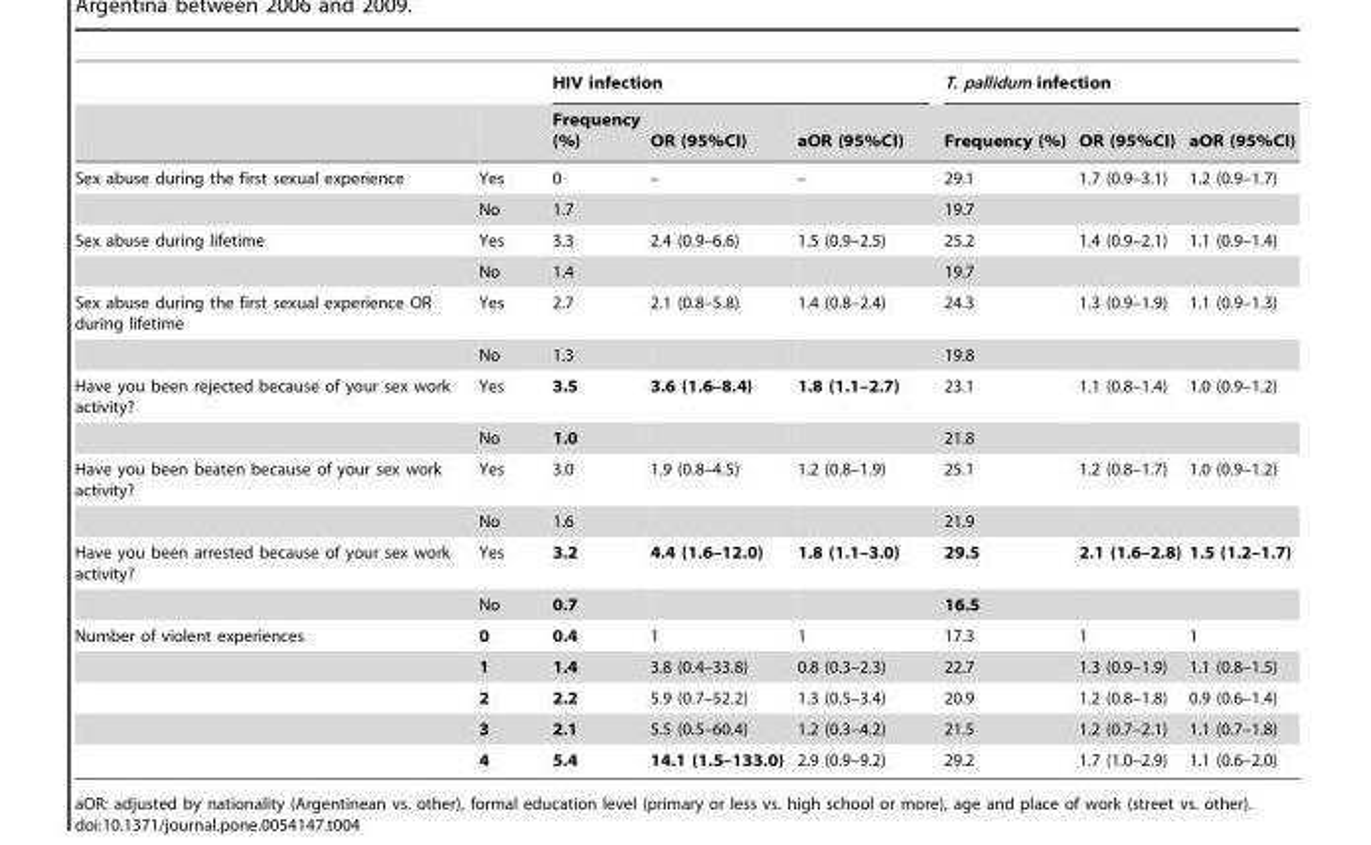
<table><thead><tr><td rowspan="2"></td><td rowspan="2"></td><td colspan="3">HIV infection</td><td colspan="3">T. pallidum infection</td></tr><tr><td>Frequency (%)</td><td>OR (95%CI)</td><td>aOR (95%CI)</td><td>Frequency (%)</td><td>OR (95%CI)</td><td>aOR (95%CI)</td></tr></thead><tbody><tr><td rowspan="2">Sex abuse during the first sexual experience</td><td>Yes</td><td>0</td><td>–</td><td>–</td><td>29.1</td><td>1.7 (0.9–3.1)</td><td>1.2 (0.9–1.7)</td></tr><tr><td>No</td><td>1.7</td><td></td><td></td><td>19.7</td><td></td><td></td></tr><tr><td rowspan="2">Sex abuse during lifetime</td><td>Yes</td><td>3.3</td><td>2.4 (0.9–6.6)</td><td>1.5 (0.9–2.5)</td><td>25.2</td><td>1.4 (0.9–2.1)</td><td>1.1 (0.9–1.4)</td></tr><tr><td>No</td><td>1.4</td><td></td><td></td><td>19.7</td><td></td><td></td></tr><tr><td rowspan="2">Sex abuse during the first sexual experience OR during lifetime</td><td>Yes</td><td>2.7</td><td>2.1 (0.8–5.8)</td><td>1.4 (0.8–2.4)</td><td>24.3</td><td>1.3 (0.9–1.9)</td><td>1.1 (0.9–1.3)</td></tr><tr><td>No</td><td>1.3</td><td></td><td></td><td>19.8</td><td></td><td></td></tr><tr><td rowspan="2">Have you been rejected because of your sex work activity?</td><td>Yes</td><td>3.5</td><td>3.6 (1.6–8.4)</td><td>1.8 (1.1–2.7)</td><td>23.1</td><td>1.1 (0.8–1.4)</td><td>1.0 (0.9–1.2)</td></tr><tr><td>No</td><td>1.0</td><td></td><td></td><td>21.8</td><td></td><td></td></tr><tr><td rowspan="2">Have you been beaten because of your sex work activity?</td><td>Yes</td><td>3.0</td><td>1.9 (0.8–4.5)</td><td>1.2 (0.8–1.9)</td><td>25.1</td><td>1.2 (0.8–1.7)</td><td>1.0 (0.9–1.2)</td></tr><tr><td>No</td><td>1.6</td><td></td><td></td><td>21.9</td><td></td><td></td></tr><tr><td rowspan="2">Have you been arrested because of your sex work activity?</td><td>Yes</td><td>3.2</td><td>4.4 (1.6–12.0)</td><td>1.8 (1.1–3.0)</td><td>29.5</td><td>2.1 (1.6–2.8)</td><td>1.5 (1.2–1.7)</td></tr><tr><td>No</td><td>0.7</td><td></td><td></td><td>16.5</td><td></td><td></td></tr><tr><td rowspan="5">Number of violent experiences</td><td>0</td><td>0.4</td><td>1</td><td>1</td><td>17.3</td><td>1</td><td>1</td></tr><tr><td>1</td><td>1.4</td><td>3.8 (0.4–33.8)</td><td>0.8 (0.3–2.3)</td><td>22.7</td><td>1.3 (0.9–1.9)</td><td>1.1 (0.8–1.5)</td></tr><tr><td>2</td><td>2.2</td><td>5.9 (0.7–52.2)</td><td>1.3 (0.5–3.4)</td><td>20.9</td><td>1.2 (0.8–1.8)</td><td>0.9 (0.6–1.4)</td></tr><tr><td>3</td><td>2.1</td><td>5.5 (0.5–60.4)</td><td>1.2 (0.3–4.2)</td><td>21.5</td><td>1.2 (0.7–2.1)</td><td>1.1 (0.7–1.8)</td></tr><tr><td>4</td><td>5.4</td><td>14.1 (1.5–133.0)</td><td>2.9 (0.9–9.2)</td><td>29.2</td><td>1.7 (1.0–2.9)</td><td>1.1 (0.6–2.0)</td></tr></tbody></table>